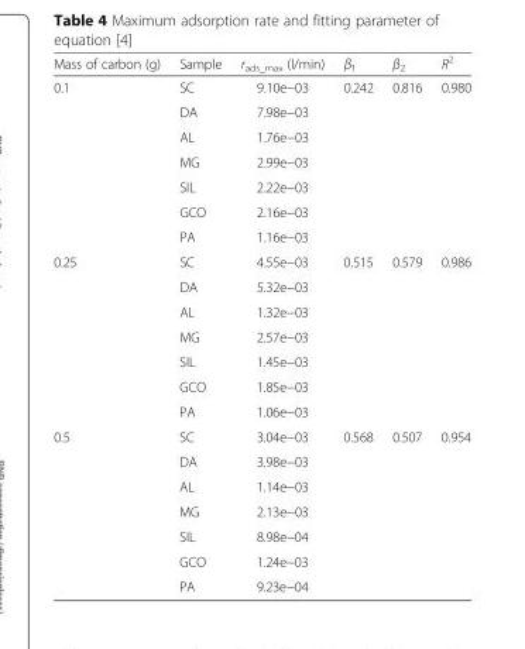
<table><thead><tr><td>Mass of carbon (g)</td><td>Sample</td><td>r<sub>ads_max</sub> (l/min)</td><td>β<sub>1</sub></td><td>β<sub>2</sub></td><td>R<sup>2</sup></td></tr></thead><tbody><tr><td rowspan="7">0.1</td><td>SC</td><td>9.10e−03</td><td rowspan="7">0.242</td><td rowspan="7">0.816</td><td rowspan="7">0.980</td></tr><tr><td>DA</td><td>7.98e−03</td></tr><tr><td>AL</td><td>1.76e−03</td></tr><tr><td>MG</td><td>2.99e−03</td></tr><tr><td>SIL</td><td>2.22e−03</td></tr><tr><td>GCO</td><td>2.16e−03</td></tr><tr><td>PA</td><td>1.16e−03</td></tr><tr><td rowspan="7">0.25</td><td>SC</td><td>4.55e−03</td><td rowspan="7">0.515</td><td rowspan="7">0.579</td><td rowspan="7">0.986</td></tr><tr><td>DA</td><td>5.32e−03</td></tr><tr><td>AL</td><td>1.32e−03</td></tr><tr><td>MG</td><td>2.57e−03</td></tr><tr><td>SIL</td><td>1.45e−03</td></tr><tr><td>GCO</td><td>1.85e−03</td></tr><tr><td>PA</td><td>1.06e−03</td></tr><tr><td rowspan="7">0.5</td><td>SC</td><td>3.04e−03</td><td rowspan="7">0.568</td><td rowspan="7">0.507</td><td rowspan="7">0.954</td></tr><tr><td>DA</td><td>3.98e−03</td></tr><tr><td>AL</td><td>1.14e−03</td></tr><tr><td>MG</td><td>2.13e−03</td></tr><tr><td>SIL</td><td>8.98e−04</td></tr><tr><td>GCO</td><td>1.24e−03</td></tr><tr><td>PA</td><td>9.23e−04</td></tr></tbody></table>